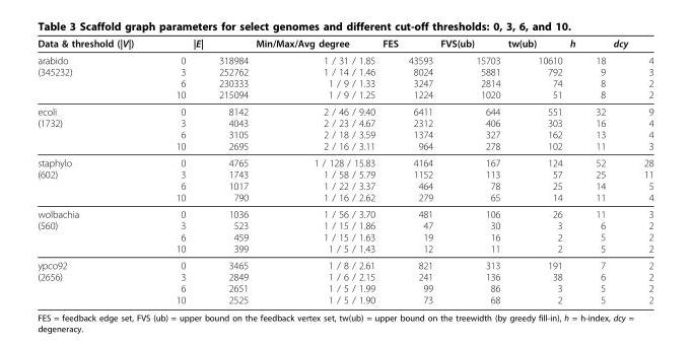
<table><thead><tr><td colspan="2">Data &amp; threshold (|V|)</td><td rowspan="2">|E| 318984 252762 230333 215094</td><td rowspan="2">Min/Max/Avg degree 1 / 31 / 1.85 1 / 14 / 1.46 1 / 9 / 1.33 1 / 9 / 1.25</td><td rowspan="2">FES 43593 8024 3247 1224</td><td rowspan="2">FVS(ub) 15703 5881 2814 1020</td><td rowspan="2">tw(ub) 10610 792 74 51</td><td rowspan="2">h 18 9 8 8</td><td rowspan="2">dcy 4 3 2 2</td></tr><tr><td>arabido (345232)</td><td>0 3 6 10</td></tr></thead><tbody><tr><td>ecoli (1732)</td><td>0 3 6 10</td><td>8142 4043 3105 2695</td><td>2 / 46 / 9.40 2 / 23 / 4.67 2 / 18 / 3.59 2 / 16 / 3.11</td><td>6411 2312 1374 964</td><td>644 406 327 278</td><td>551 303 162 102</td><td>32 16 13 11</td><td>9 4 4 3</td></tr><tr><td>staphylo (602)</td><td>0 3 6 10</td><td>4765 1743 1017 790</td><td>1 / 128 / 15.83 1 / 58 / 5.79 1 / 22 / 3.37 1 / 16 / 2.62</td><td>4164 1152 464 279</td><td>167 113 78 65</td><td>124 57 25 14</td><td>52 25 14 11</td><td>28 11 5 4</td></tr><tr><td>wolbachia (560)</td><td>0 3 6 10</td><td>1036 523 459 399</td><td>1 / 56 / 3.70 1 / 15 / 1.86 1 / 15 / 1.63 1 / 5 / 1.43</td><td>481 47 19 12</td><td>106 30 16 11</td><td>26 3 2 2</td><td>11 6 5 5</td><td>3 2 2 2</td></tr><tr><td>ypco92 (2656)</td><td>0 3 6 10</td><td>3465 2849 2651 2525</td><td>1 / 8 / 2.61 1 / 6 / 2.15 1 / 5 / 1.99 1 / 5 / 1.90</td><td>821 241 99 73</td><td>313 136 86 68</td><td>191 38 3 2</td><td>7 6 5 5</td><td>2 2 2 2</td></tr></tbody></table>